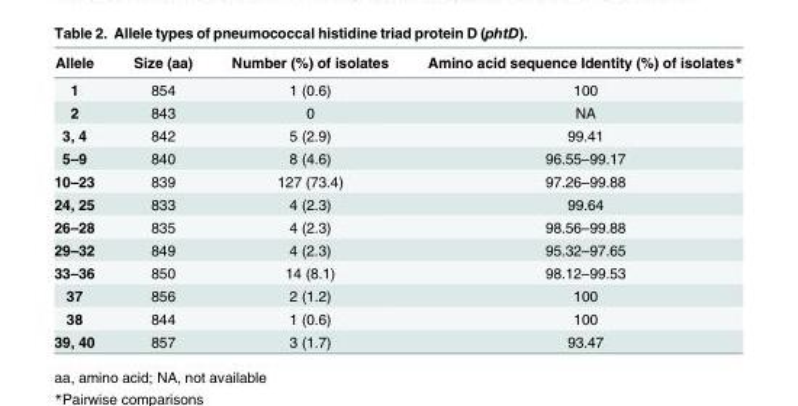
<table><thead><tr><td>Allele</td><td>Size (aa)</td><td>Number (%) of isolates</td><td>Amino acid sequence Identity (%) of isolates*</td></tr></thead><tbody><tr><td>1</td><td>854</td><td>1 (0.6)</td><td>100</td></tr><tr><td>2</td><td>843</td><td>0</td><td>NA</td></tr><tr><td>3, 4</td><td>842</td><td>5 (2.9)</td><td>99.41</td></tr><tr><td>5–9</td><td>840</td><td>8 (4.6)</td><td>96.55–99.17</td></tr><tr><td>10–23</td><td>839</td><td>127 (73.4)</td><td>97.26–99.88</td></tr><tr><td>24, 25</td><td>833</td><td>4 (2.3)</td><td>99.64</td></tr><tr><td>26–28</td><td>835</td><td>4 (2.3)</td><td>98.56–99.88</td></tr><tr><td>29–32</td><td>849</td><td>4 (2.3)</td><td>95.32–97.65</td></tr><tr><td>33–36</td><td>850</td><td>14 (8.1)</td><td>98.12–99.53</td></tr><tr><td>37</td><td>856</td><td>2 (1.2)</td><td>100</td></tr><tr><td>38</td><td>844</td><td>1 (0.6)</td><td>100</td></tr><tr><td>39, 40</td><td>857</td><td>3 (1.7)</td><td>93.47</td></tr></tbody></table>